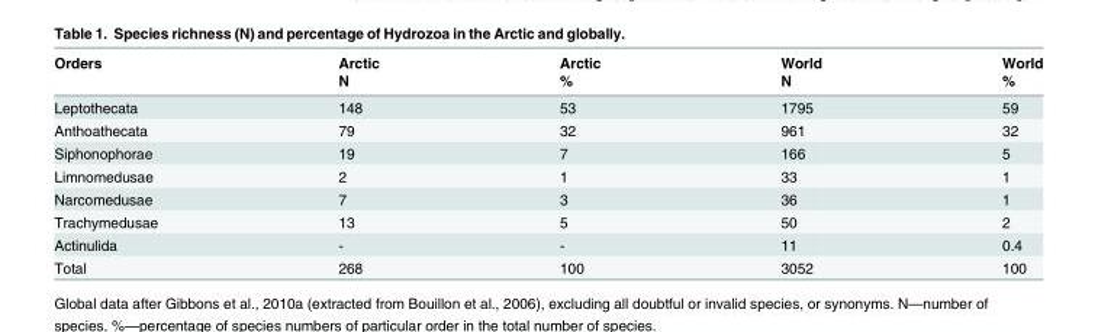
<table><thead><tr><td rowspan="2">Orders</td><td rowspan="2">Arctic N</td><td rowspan="2">Arctic %</td><td rowspan="2">World N</td><td rowspan="2">World %</td></tr><tr></tr></thead><tbody><tr><td>Leptothecata</td><td>148</td><td>53</td><td>1795</td><td>59</td></tr><tr><td>Anthoathecata</td><td>79</td><td>32</td><td>961</td><td>32</td></tr><tr><td>Siphonophorae</td><td>19</td><td>7</td><td>166</td><td>5</td></tr><tr><td>Limnomedusae</td><td>2</td><td>1</td><td>33</td><td>1</td></tr><tr><td>Narcomedusae</td><td>7</td><td>3</td><td>36</td><td>1</td></tr><tr><td>Trachymedusae</td><td>13</td><td>5</td><td>50</td><td>2</td></tr><tr><td>Actinulida</td><td>-</td><td>-</td><td>11</td><td>0.4</td></tr><tr><td>Total</td><td>268</td><td>100</td><td>3052</td><td>100</td></tr></tbody></table>